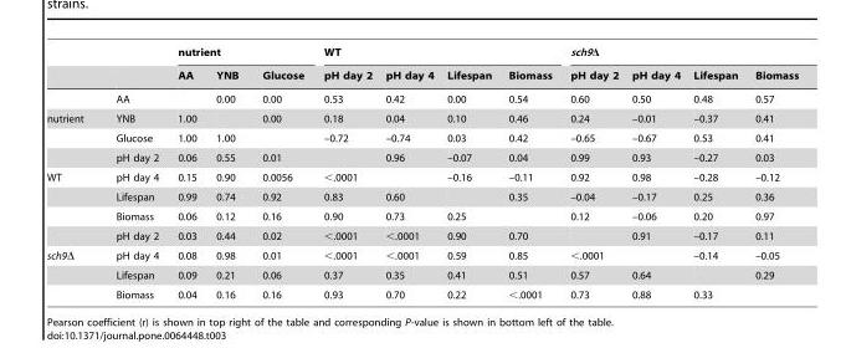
<table><thead><tr><td rowspan="2"></td><td rowspan="2"></td><td colspan="3">nutrient</td><td colspan="4">WT</td><td colspan="4">sch9Δ</td></tr><tr><td>AA</td><td>YNB</td><td>Glucose</td><td>pH day 2</td><td>pH day 4</td><td>Lifespan</td><td>Biomass</td><td>pH day 2</td><td>pH day 4</td><td>Lifespan</td><td>Biomass</td></tr></thead><tbody><tr><td></td><td>AA</td><td></td><td>0.00</td><td>0.00</td><td>0.53</td><td>0.42</td><td>0.00</td><td>0.54</td><td>0.60</td><td>0.50</td><td>0.48</td><td>0.57</td></tr><tr><td rowspan="3">nutrient</td><td>YNB</td><td>1.00</td><td></td><td>0.00</td><td>0.18</td><td>0.04</td><td>0.10</td><td>0.46</td><td>0.24</td><td>–0.01</td><td>–0.37</td><td>0.41</td></tr><tr><td>Glucose</td><td>1.00</td><td>1.00</td><td></td><td>–0.72</td><td>–0.74</td><td>0.03</td><td>0.42</td><td>–0.65</td><td>–0.67</td><td>0.53</td><td>0.41</td></tr><tr><td>pH day 2</td><td>0.06</td><td>0.55</td><td>0.01</td><td></td><td>0.96</td><td>–0.07</td><td>0.04</td><td>0.99</td><td>0.93</td><td>–0.27</td><td>0.03</td></tr><tr><td rowspan="4">WT</td><td>pH day 4</td><td>0.15</td><td>0.90</td><td>0.0056</td><td>&lt;.0001</td><td></td><td>–0.16</td><td>–0.11</td><td>0.92</td><td>0.98</td><td>–0.28</td><td>–0.12</td></tr><tr><td>Lifespan</td><td>0.99</td><td>0.74</td><td>0.92</td><td>0.83</td><td>0.60</td><td></td><td>0.35</td><td>–0.04</td><td>–0.17</td><td>0.25</td><td>0.36</td></tr><tr><td>Biomass</td><td>0.06</td><td>0.12</td><td>0.16</td><td>0.90</td><td>0.73</td><td>0.25</td><td></td><td>0.12</td><td>–0.06</td><td>0.20</td><td>0.97</td></tr><tr><td>pH day 2</td><td>0.03</td><td>0.44</td><td>0.02</td><td>&lt;.0001</td><td>&lt;.0001</td><td>0.90</td><td>0.70</td><td></td><td>0.91</td><td>–0.17</td><td>0.11</td></tr><tr><td rowspan="3">sch9Δ</td><td>pH day 4</td><td>0.08</td><td>0.98</td><td>0.01</td><td>&lt;.0001</td><td>&lt;.0001</td><td>0.59</td><td>0.85</td><td>&lt;.0001</td><td></td><td>–0.14</td><td>–0.05</td></tr><tr><td>Lifespan</td><td>0.09</td><td>0.21</td><td>0.06</td><td>0.37</td><td>0.35</td><td>0.41</td><td>0.51</td><td>0.57</td><td>0.64</td><td></td><td>0.29</td></tr><tr><td>Biomass</td><td>0.04</td><td>0.16</td><td>0.16</td><td>0.93</td><td>0.70</td><td>0.22</td><td>&lt;.0001</td><td>0.73</td><td>0.88</td><td>0.33</td><td></td></tr></tbody></table>